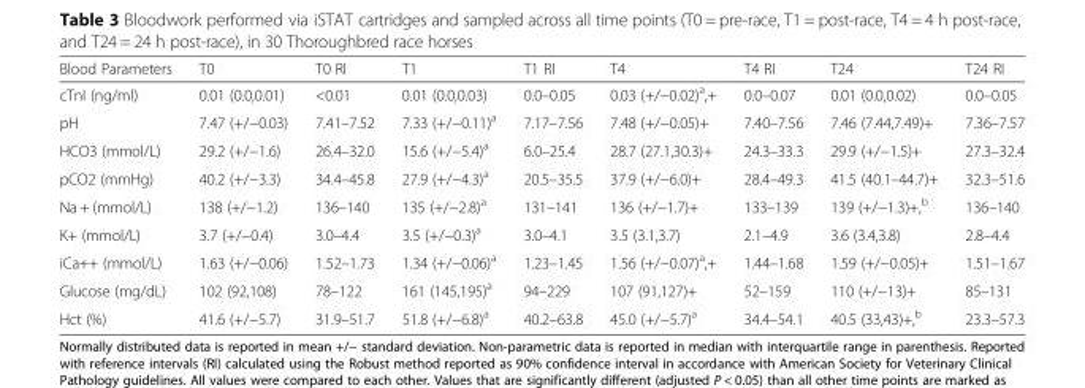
<table><thead><tr><td>Blood Parameters</td><td>T0</td><td>T0 RI</td><td>T1</td><td>T1 RI</td><td>T4</td><td>T4 RI</td><td>T24</td><td>T24 RI</td></tr></thead><tbody><tr><td>cTnI (ng/ml)</td><td>0.01 (0.0,0.01)</td><td>&lt;0.01</td><td>0.01 (0.0,0.03)</td><td>0.0–0.05</td><td>0.03 (+/−0.02)<sup>a</sup>,+</td><td>0.0–0.07</td><td>0.01 (0.0,0.02)</td><td>0.0–0.05</td></tr><tr><td>pH</td><td>7.47 (+/−0.03)</td><td>7.41–7.52</td><td>7.33 (+/−0.11)<sup>a</sup></td><td>7.17–7.56</td><td>7.48 (+/−0.05)+</td><td>7.40–7.56</td><td>7.46 (7.44,7.49)+</td><td>7.36–7.57</td></tr><tr><td>HCO3 (mmol/L)</td><td>29.2 (+/−1.6)</td><td>26.4–32.0</td><td>15.6 (+/−5.4)<sup>a</sup></td><td>6.0–25.4</td><td>28.7 (27.1,30.3)+</td><td>24.3–33.3</td><td>29.9 (+/−1.5)+</td><td>27.3–32.4</td></tr><tr><td>pCO2 (mmHg)</td><td>40.2 (+/−3.3)</td><td>34.4–45.8</td><td>27.9 (+/−4.3)<sup>a</sup></td><td>20.5–35.5</td><td>37.9 (+/−6.0)+</td><td>28.4–49.3</td><td>41.5 (40.1–44.7)+</td><td>32.3–51.6</td></tr><tr><td>Na + (mmol/L)</td><td>138 (+/−1.2)</td><td>136–140</td><td>135 (+/−2.8)<sup>a</sup></td><td>131–141</td><td>136 (+/−1.7)+</td><td>133–139</td><td>139 (+/−1.3)+,<sup>b</sup></td><td>136–140</td></tr><tr><td>K+ (mmol/L)</td><td>3.7 (+/−0.4)</td><td>3.0–4.4</td><td>3.5 (+/−0.3)<sup>a</sup></td><td>3.0–4.1</td><td>3.5 (3.1,3.7)</td><td>2.1–4.9</td><td>3.6 (3.4,3.8)</td><td>2.8–4.4</td></tr><tr><td>iCa++ (mmol/L)</td><td>1.63 (+/−0.06)</td><td>1.52–1.73</td><td>1.34 (+/−0.06)<sup>a</sup></td><td>1.23–1.45</td><td>1.56 (+/−0.07)<sup>a</sup>,+</td><td>1.44–1.68</td><td>1.59 (+/−0.05)+</td><td>1.51–1.67</td></tr><tr><td>Glucose (mg/dL)</td><td>102 (92,108)</td><td>78–122</td><td>161 (145,195)<sup>a</sup></td><td>94–229</td><td>107 (91,127)+</td><td>52–159</td><td>110 (+/−13)+</td><td>85–131</td></tr><tr><td>Hct (%)</td><td>41.6 (+/−5.7)</td><td>31.9–51.7</td><td>51.8 (+/−6.8)<sup>a</sup></td><td>40.2–63.8</td><td>45.0 (+/−5.7)<sup>a</sup></td><td>34.4–54.1</td><td>40.5 (33,43)+,<sup>b</sup></td><td>23.3–57.3</td></tr></tbody></table>